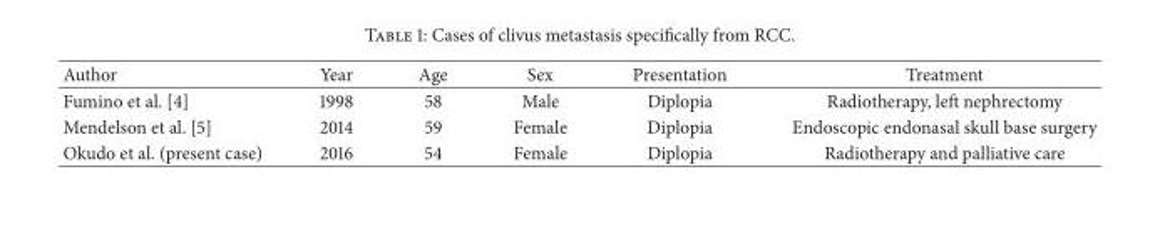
<table><thead><tr><td>Author</td><td>Year</td><td>Age</td><td>Sex</td><td>Presentation</td><td>Treatment</td></tr></thead><tbody><tr><td>Fumino et al. [4]</td><td>1998</td><td>58</td><td>Male</td><td>Diplopia</td><td>Radiotherapy, left nephrectomy</td></tr><tr><td>Mendelson et al. [5]</td><td>2014</td><td>59</td><td>Female</td><td>Diplopia</td><td>Endoscopic endonasal skull base surgery</td></tr><tr><td>Okudo et al. (present case)</td><td>2016</td><td>54</td><td>Female</td><td>Diplopia</td><td>Radiotherapy and palliative care</td></tr></tbody></table>